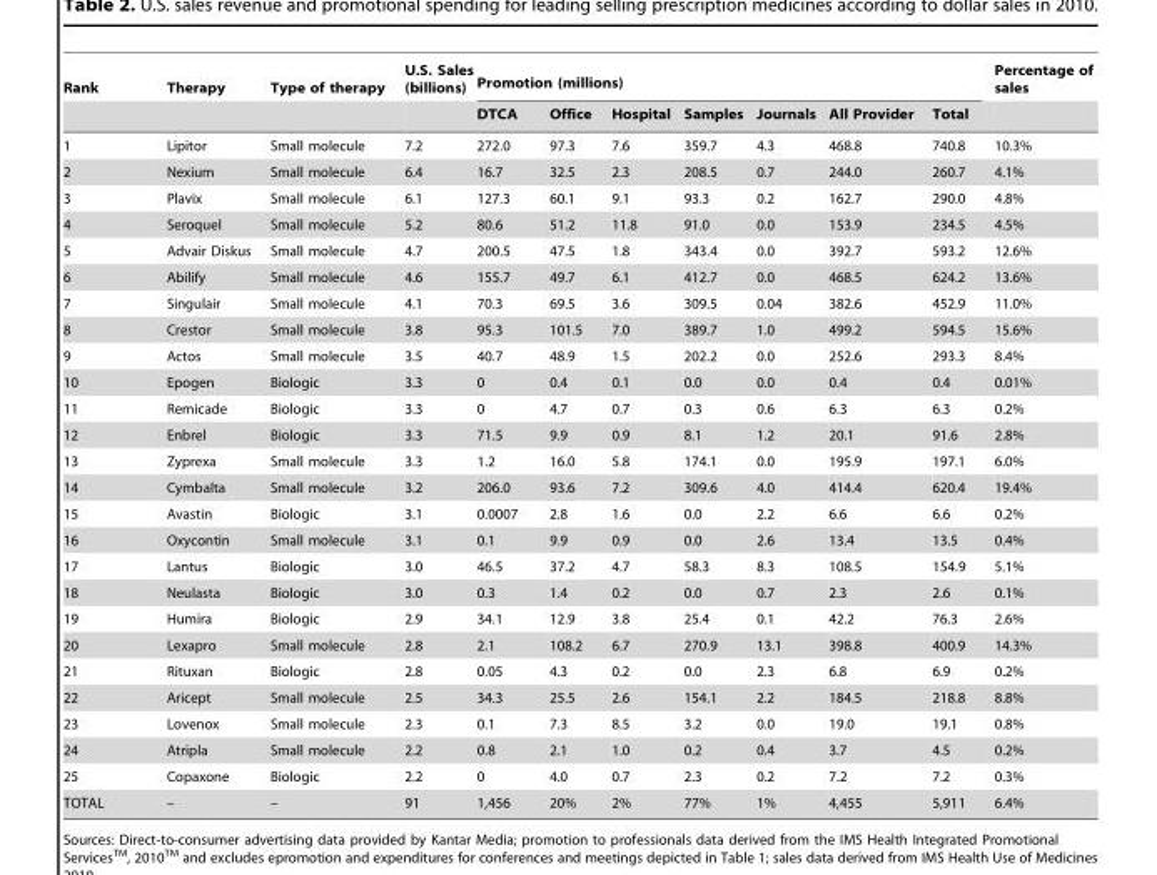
<table><thead><tr><td rowspan="2">Rank</td><td rowspan="2">Therapy</td><td rowspan="2">Type of therapy</td><td rowspan="2">U.S. Sales (billions)</td><td colspan="7">Promotion (millions)</td><td rowspan="2">Percentage of sales</td></tr><tr><td>DTCA</td><td>Office</td><td>Hospital</td><td>Samples</td><td>Journals</td><td>All Provider</td><td>Total</td></tr></thead><tbody><tr><td>1</td><td>Lipitor</td><td>Small molecule</td><td>7.2</td><td>272.0</td><td>97.3</td><td>7.6</td><td>359.7</td><td>4.3</td><td>468.8</td><td>740.8</td><td>10.3%</td></tr><tr><td>2</td><td>Nexium</td><td>Small molecule</td><td>6.4</td><td>16.7</td><td>32.5</td><td>2.3</td><td>208.5</td><td>0.7</td><td>244.0</td><td>260.7</td><td>4.1%</td></tr><tr><td>3</td><td>Plavix</td><td>Small molecule</td><td>6.1</td><td>127.3</td><td>60.1</td><td>9.1</td><td>93.3</td><td>0.2</td><td>162.7</td><td>290.0</td><td>4.8%</td></tr><tr><td>4</td><td>Seroquel</td><td>Small molecule</td><td>5.2</td><td>80.6</td><td>51.2</td><td>11.8</td><td>91.0</td><td>0.0</td><td>153.9</td><td>234.5</td><td>4.5%</td></tr><tr><td>5</td><td>Advair Diskus</td><td>Small molecule</td><td>4.7</td><td>200.5</td><td>47.5</td><td>1.8</td><td>343.4</td><td>0.0</td><td>392.7</td><td>593.2</td><td>12.6%</td></tr><tr><td>6</td><td>Abilify</td><td>Small molecule</td><td>4.6</td><td>155.7</td><td>49.7</td><td>6.1</td><td>412.7</td><td>0.0</td><td>468.5</td><td>624.2</td><td>13.6%</td></tr><tr><td>7</td><td>Singulair</td><td>Small molecule</td><td>4.1</td><td>70.3</td><td>69.5</td><td>3.6</td><td>309.5</td><td>0.04</td><td>382.6</td><td>452.9</td><td>11.0%</td></tr><tr><td>8</td><td>Crestor</td><td>Small molecule</td><td>3.8</td><td>95.3</td><td>101.5</td><td>7.0</td><td>389.7</td><td>1.0</td><td>499.2</td><td>594.5</td><td>15.6%</td></tr><tr><td>9</td><td>Actos</td><td>Small molecule</td><td>3.5</td><td>40.7</td><td>48.9</td><td>1.5</td><td>202.2</td><td>0.0</td><td>252.6</td><td>293.3</td><td>8.4%</td></tr><tr><td>10</td><td>Epogen</td><td>Biologic</td><td>3.3</td><td>0</td><td>0.4</td><td>0.1</td><td>0.0</td><td>0.0</td><td>0.4</td><td>0.4</td><td>0.01%</td></tr><tr><td>11</td><td>Remicade</td><td>Biologic</td><td>3.3</td><td>0</td><td>4.7</td><td>0.7</td><td>0.3</td><td>0.6</td><td>6.3</td><td>6.3</td><td>0.2%</td></tr><tr><td>12</td><td>Enbrel</td><td>Biologic</td><td>3.3</td><td>71.5</td><td>9.9</td><td>0.9</td><td>8.1</td><td>1.2</td><td>20.1</td><td>91.6</td><td>2.8%</td></tr><tr><td>13</td><td>Zyprexa</td><td>Small molecule</td><td>3.3</td><td>1.2</td><td>16.0</td><td>5.8</td><td>174.1</td><td>0.0</td><td>195.9</td><td>197.1</td><td>6.0%</td></tr><tr><td>14</td><td>Cymbalta</td><td>Small molecule</td><td>3.2</td><td>206.0</td><td>93.6</td><td>7.2</td><td>309.6</td><td>4.0</td><td>414.4</td><td>620.4</td><td>19.4%</td></tr><tr><td>15</td><td>Avastin</td><td>Biologic</td><td>3.1</td><td>0.0007</td><td>2.8</td><td>1.6</td><td>0.0</td><td>2.2</td><td>6.6</td><td>6.6</td><td>0.2%</td></tr><tr><td>16</td><td>Oxycontin</td><td>Small molecule</td><td>3.1</td><td>0.1</td><td>9.9</td><td>0.9</td><td>0.0</td><td>2.6</td><td>13.4</td><td>13.5</td><td>0.4%</td></tr><tr><td>17</td><td>Lantus</td><td>Biologic</td><td>3.0</td><td>46.5</td><td>37.2</td><td>4.7</td><td>58.3</td><td>8.3</td><td>108.5</td><td>154.9</td><td>5.1%</td></tr><tr><td>18</td><td>Neulasta</td><td>Biologic</td><td>3.0</td><td>0.3</td><td>1.4</td><td>0.2</td><td>0.0</td><td>0.7</td><td>2.3</td><td>2.6</td><td>0.1%</td></tr><tr><td>19</td><td>Humira</td><td>Biologic</td><td>2.9</td><td>34.1</td><td>12.9</td><td>3.8</td><td>25.4</td><td>0.1</td><td>42.2</td><td>76.3</td><td>2.6%</td></tr><tr><td>20</td><td>Lexapro</td><td>Small molecule</td><td>2.8</td><td>2.1</td><td>108.2</td><td>6.7</td><td>270.9</td><td>13.1</td><td>398.8</td><td>400.9</td><td>14.3%</td></tr><tr><td>21</td><td>Rituxan</td><td>Biologic</td><td>2.8</td><td>0.05</td><td>4.3</td><td>0.2</td><td>0.0</td><td>2.3</td><td>6.8</td><td>6.9</td><td>0.2%</td></tr><tr><td>22</td><td>Aricept</td><td>Small molecule</td><td>2.5</td><td>34.3</td><td>25.5</td><td>2.6</td><td>154.1</td><td>2.2</td><td>184.5</td><td>218.8</td><td>8.8%</td></tr><tr><td>23</td><td>Lovenox</td><td>Small molecule</td><td>2.3</td><td>0.1</td><td>7.3</td><td>8.5</td><td>3.2</td><td>0.0</td><td>19.0</td><td>19.1</td><td>0.8%</td></tr><tr><td>24</td><td>Atripla</td><td>Small molecule</td><td>2.2</td><td>0.8</td><td>2.1</td><td>1.0</td><td>0.2</td><td>0.4</td><td>3.7</td><td>4.5</td><td>0.2%</td></tr><tr><td>25</td><td>Copaxone</td><td>Biologic</td><td>2.2</td><td>0</td><td>4.0</td><td>0.7</td><td>2.3</td><td>0.2</td><td>7.2</td><td>7.2</td><td>0.3%</td></tr><tr><td>TOTAL</td><td>–</td><td>–</td><td>91</td><td>1,456</td><td>20%</td><td>2%</td><td>77%</td><td>1%</td><td>4,455</td><td>5,911</td><td>6.4%</td></tr></tbody></table>